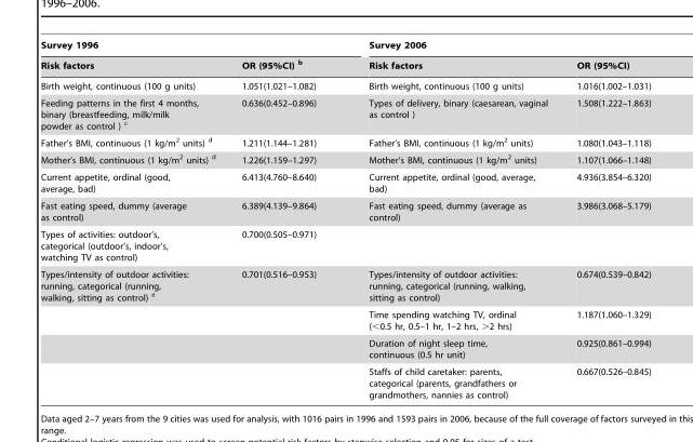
<table><thead><tr><td colspan="2">Survey 1996</td><td colspan="2">Survey 2006</td></tr><tr><td>Risk factors</td><td>OR (95%CI) b</td><td>Risk factors</td><td>OR (95%CI)</td></tr></thead><tbody><tr><td>Birth weight, continuous (100 g units)</td><td>1.051(1.021–1.082)</td><td>Birth weight, continuous (100 g units)</td><td>1.016(1.002–1.031)</td></tr><tr><td>Feeding patterns in the first 4 months, binary (breastfeeding, milk/milk powder as control ) c</td><td>0.636(0.452–0.896)</td><td>Types of delivery, binary (caesarean, vaginal as control )</td><td>1.508(1.222–1.863)</td></tr><tr><td>Father’s BMI, continuous (1 kg/m<sup>2</sup> units) d</td><td>1.211(1.144–1.281)</td><td>Father’s BMI, continuous (1 kg/m<sup>2</sup> units)</td><td>1.080(1.043–1.118)</td></tr><tr><td>Mother’s BMI, continuous (1 kg/m<sup>2</sup> units) d</td><td>1.226(1.159–1.297)</td><td>Mother’s BMI, continuous (1 kg/m<sup>2</sup> units)</td><td>1.107(1.066–1.148)</td></tr><tr><td>Current appetite, ordinal (good, average, bad)</td><td>6.413(4.760–8.640)</td><td>Current appetite, ordinal (good, average, bad)</td><td>4.936(3.854–6.320)</td></tr><tr><td>Fast eating speed, dummy (average as control)</td><td>6.389(4.139–9.864)</td><td>Fast eating speed, dummy (average as control)</td><td>3.986(3.068–5.179)</td></tr><tr><td>Types of activities: outdoor’s, categorical (outdoor’s, indoor’s, watching TV as control)</td><td>0.700(0.505–0.971)</td><td></td><td></td></tr><tr><td rowspan="4">Types/intensity of outdoor activities: running, categorical (running, walking, sitting as control) e</td><td>0.701(0.516–0.953)</td><td>Types/intensity of outdoor activities: running, categorical (running, walking, sitting as control)</td><td>0.674(0.539–0.842)</td></tr><tr><td></td><td>Time spending watching TV, ordinal (&lt;0.5 hr, 0.5–1 hr, 1–2 hrs, &gt;2 hrs)</td><td>1.187(1.060–1.329)</td></tr><tr><td></td><td>Duration of night sleep time, continuous (0.5 hr unit)</td><td>0.925(0.861–0.994)</td></tr><tr><td></td><td>Staffs of child caretaker: parents, categorical (parents, grandfathers or grandmothers, nannies as control)</td><td>0.667(0.526–0.845)</td></tr></tbody></table>